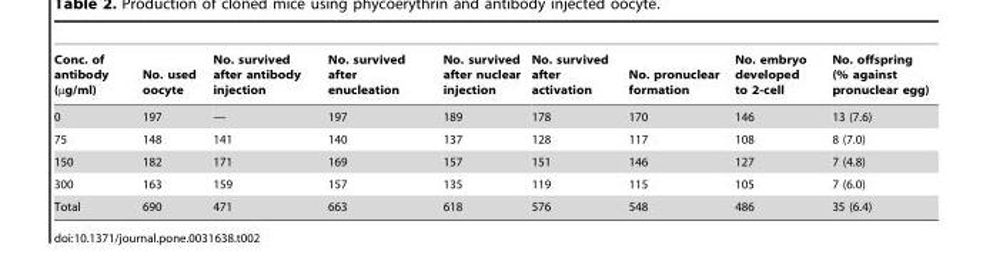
<table><thead><tr><td>Conc. of antibody (µg/ml)</td><td>No. used oocyte</td><td>No. survived after antibody injection</td><td>No. survived after enucleation</td><td>No. survived after nuclear injection</td><td>No. survived after activation</td><td>No. pronuclear formation</td><td>No. embryo developed to 2-cell</td><td>No. offspring (% against pronuclear egg)</td></tr></thead><tbody><tr><td>0</td><td>197</td><td>—</td><td>197</td><td>189</td><td>178</td><td>170</td><td>146</td><td>13 (7.6)</td></tr><tr><td>75</td><td>148</td><td>141</td><td>140</td><td>137</td><td>128</td><td>117</td><td>108</td><td>8 (7.0)</td></tr><tr><td>150</td><td>182</td><td>171</td><td>169</td><td>157</td><td>151</td><td>146</td><td>127</td><td>7 (4.8)</td></tr><tr><td>300</td><td>163</td><td>159</td><td>157</td><td>135</td><td>119</td><td>115</td><td>105</td><td>7 (6.0)</td></tr><tr><td>Total</td><td>690</td><td>471</td><td>663</td><td>618</td><td>576</td><td>548</td><td>486</td><td>35 (6.4)</td></tr></tbody></table>